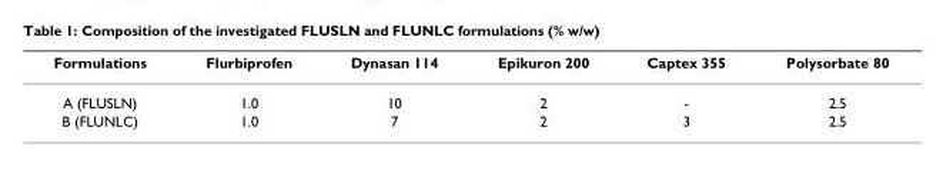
<table><thead><tr><td>Formulations</td><td>Flurbiprofen</td><td>Dynasan 114</td><td>Epikuron 200</td><td>Captex 355</td><td>Polysorbate 80</td></tr></thead><tbody><tr><td>A (FLUSLN)</td><td>1.0</td><td>10</td><td>2</td><td>-</td><td>2.5</td></tr><tr><td>B (FLUNLC)</td><td>1.0</td><td>7</td><td>2</td><td>3</td><td>2.5</td></tr></tbody></table>